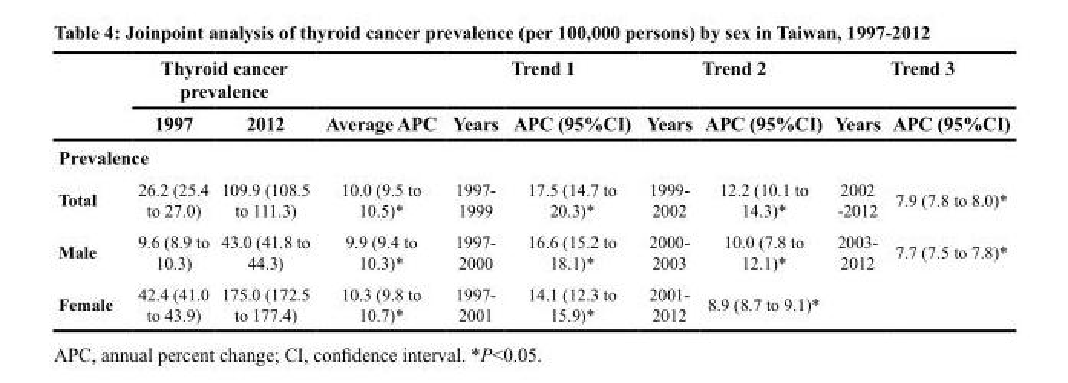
<table><thead><tr><td rowspan="2"></td><td colspan="2">Thyroid cancer prevalence</td><td rowspan="2">Average APC</td><td colspan="2">Trend 1</td><td colspan="2">Trend 2</td><td colspan="2">Trend 3</td></tr><tr><td>1997</td><td>2012</td><td>Years</td><td>APC (95%CI)</td><td>Years</td><td>APC (95%CI)</td><td>Years</td><td>APC (95%CI)</td></tr></thead><tbody><tr><td colspan="10">Prevalence</td></tr><tr><td>Total</td><td>26.2 (25.4 to 27.0)</td><td>109.9 (108.5 to 111.3)</td><td>10.0 (9.5 to 10.5)*</td><td>1997- 1999</td><td>17.5 (14.7 to 20.3)*</td><td>1999- 2002</td><td>12.2 (10.1 to 14.3)*</td><td>2002 -2012</td><td>7.9 (7.8 to 8.0)*</td></tr><tr><td>Male</td><td>9.6 (8.9 to 10.3)</td><td>43.0 (41.8 to 44.3)</td><td>9.9 (9.4 to 10.3)*</td><td>1997- 2000</td><td>16.6 (15.2 to 18.1)*</td><td>2000- 2003</td><td>10.0 (7.8 to 12.1)*</td><td>2003- 2012</td><td>7.7 (7.5 to 7.8)*</td></tr><tr><td>Female</td><td>42.4 (41.0 to 43.9)</td><td>175.0 (172.5 to 177.4)</td><td>10.3 (9.8 to 10.7)*</td><td>1997- 2001</td><td>14.1 (12.3 to 15.9)*</td><td>2001- 2012</td><td>8.9 (8.7 to 9.1)*</td><td></td><td></td></tr></tbody></table>